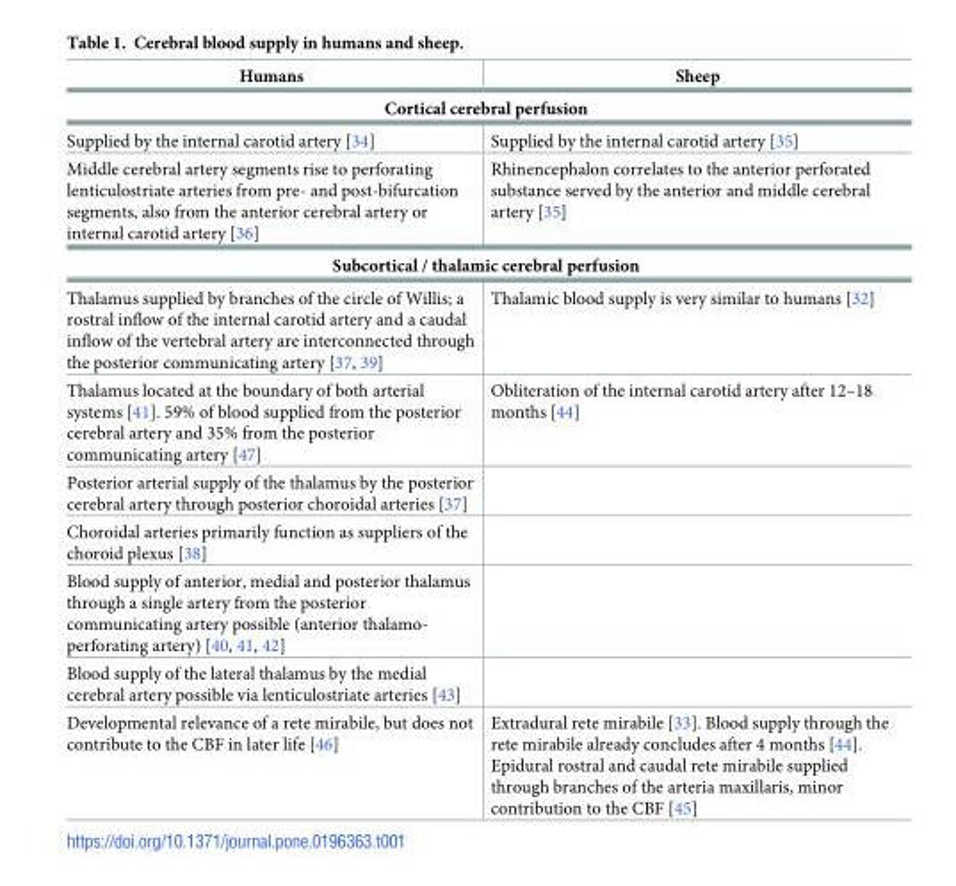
<table><thead><tr><td>Humans</td><td>Sheep</td></tr></thead><tbody><tr><td colspan="2">Cortical cerebral perfusion</td></tr><tr><td>Supplied by the internal carotid artery [34]</td><td>Supplied by the internal carotid artery [35]</td></tr><tr><td>Middle cerebral artery segments rise to perforating lenticulostriate arteries from pre- and post-bifurcation segments, also from the anterior cerebral artery or internal carotid artery [36]</td><td>Rhinencephalon correlates to the anterior perforated substance served by the anterior and middle cerebral artery [35]</td></tr><tr><td colspan="2">Subcortical / thalamic cerebral perfusion</td></tr><tr><td>Thalamus supplied by branches of the circle of Willis; a rostral inflow of the internal carotid artery and a caudal inflow of the vertebral artery are interconnected through the posterior communicating artery [37, 39]</td><td>Thalamic blood supply is very similar to humans [32]</td></tr><tr><td>Thalamus located at the boundary of both arterial systems [41]. 59% of blood supplied from the posterior cerebral artery and 35% from the posterior communicating artery [47]</td><td>Obliteration of the internal carotid artery after 12–18 months [44]</td></tr><tr><td colspan="2">Posterior arterial supply of the thalamus by the posterior cerebral artery through posterior choroidal arteries [37]</td></tr><tr><td colspan="2">Choroidal arteries primarily function as suppliers of the choroid plexus [38]</td></tr><tr><td colspan="2">Blood supply of anterior, medial and posterior thalamus through a single artery from the posterior communicating artery possible (anterior thalamo- perforating artery) [40, 41, 42]</td></tr><tr><td colspan="2">Blood supply of the lateral thalamus by the medial cerebral artery possible via lenticulostriate arteries [43]</td></tr><tr><td>Developmental relevance of a rete mirabile, but does not contribute to the CBF in later life [46]</td><td>Extradural rete mirabile [33]. Blood supply through the rete mirabile already concludes after 4 months [44]. Epidural rostral and caudal rete mirabile supplied through branches of the arteria maxillaris, minor contribution to the CBF [45]</td></tr></tbody></table>